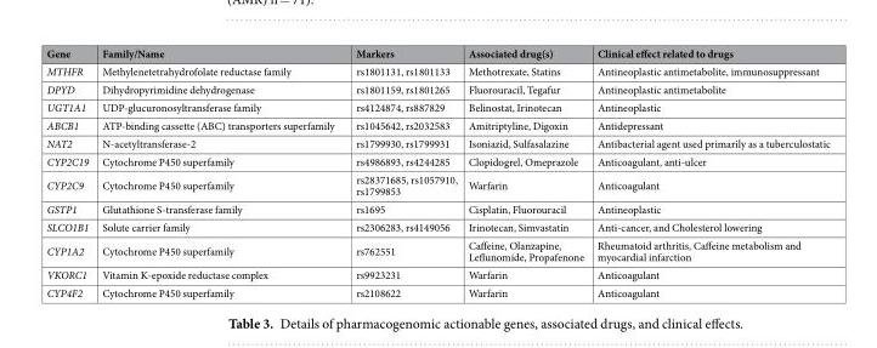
<table><thead><tr><td>Gene</td><td>Family/Name</td><td>Markers</td><td>Associated drug(s)</td><td>Clinical effect related to drugs</td></tr></thead><tbody><tr><td>MTHFR</td><td>Methylenetetrahydrofolate reductase family</td><td>rs1801131, rs1801133</td><td>Methotrexate, Statins</td><td>Antineoplastic antimetabolite, immunosuppressant</td></tr><tr><td>DPYD</td><td>Dihydropyrimidine dehydrogenase</td><td>rs1801159, rs1801265</td><td>Fluorouracil, Tegafur</td><td>Antineoplastic antimetabolite</td></tr><tr><td>UGT1A1</td><td>UDP-glucuronosyltransferase family</td><td>rs4124874, rs887829</td><td>Belinostat, Irinotecan</td><td>Antineoplastic</td></tr><tr><td>ABCB1</td><td>ATP-binding cassette (ABC) transporters superfamily</td><td>rs1045642, rs2032583</td><td>Amitriptyline, Digoxin</td><td>Antidepressant</td></tr><tr><td>NAT2</td><td>N-acetyltransferase-2</td><td>rs1799930, rs1799931</td><td>Isoniazid, Sulfasalazine</td><td>Antibacterial agent used primarily as a tuberculostatic</td></tr><tr><td>CYP2C19</td><td>Cytochrome P450 superfamily</td><td>rs4986893, rs4244285</td><td>Clopidogrel, Omeprazole</td><td>Anticoagulant, anti-ulcer</td></tr><tr><td>CYP2C9</td><td>Cytochrome P450 superfamily</td><td>rs28371685, rs1057910, rs1799853</td><td>Warfarin</td><td>Anticoagulant</td></tr><tr><td>GSTP1</td><td>Glutathione S-transferase family</td><td>rs1695</td><td>Cisplatin, Fluorouracil</td><td>Antineoplastic</td></tr><tr><td>SLCO1B1</td><td>Solute carrier family</td><td>rs2306283, rs4149056</td><td>Irinotecan, Simvastatin</td><td>Anti-cancer, and Cholesterol lowering</td></tr><tr><td>CYP1A2</td><td>Cytochrome P450 superfamily</td><td>rs762551</td><td>Caffeine, Olanzapine, Leflunomide, Propafenone</td><td>Rheumatoid arthritis, Caffeine metabolism and myocardial infarction</td></tr><tr><td>VKORC1</td><td>Vitamin K-epoxide reductase complex</td><td>rs9923231</td><td>Warfarin</td><td>Anticoagulant</td></tr><tr><td>CYP4F2</td><td>Cytochrome P450 superfamily</td><td>rs2108622</td><td>Warfarin</td><td>Anticoagulant</td></tr></tbody></table>